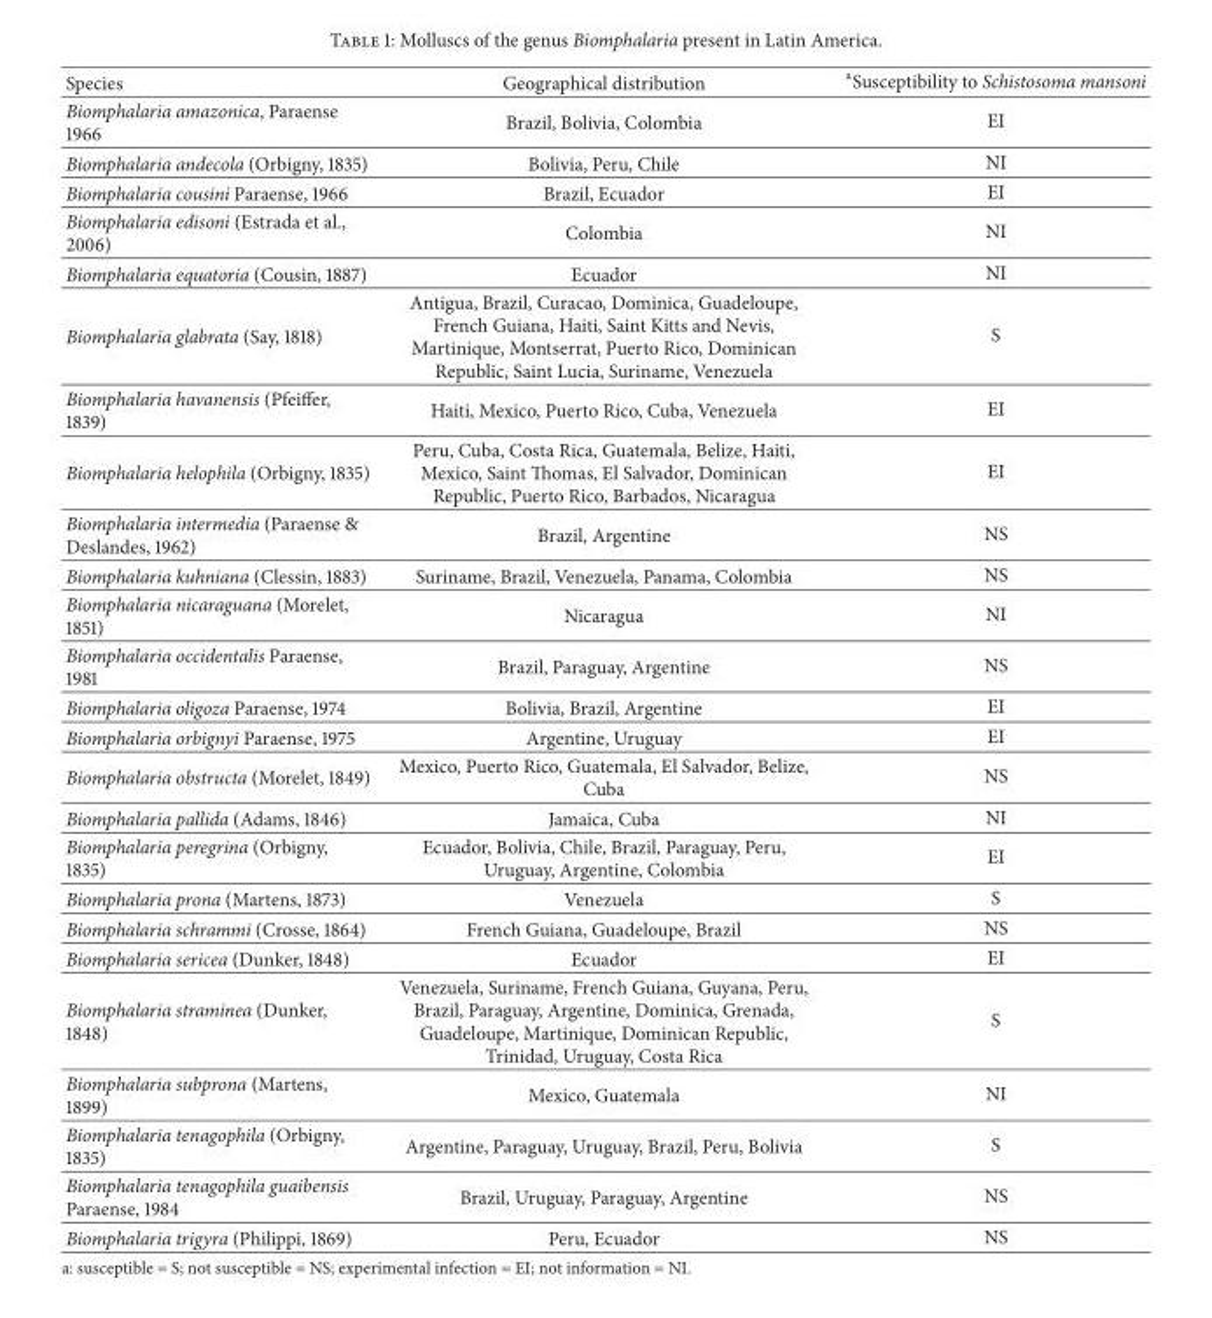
<table><thead><tr><td>Species</td><td>Geographical distribution</td><td><sup>a</sup>Susceptibility to Schistosoma mansoni</td></tr></thead><tbody><tr><td>Biomphalaria amazonica, Paraense 1966</td><td>Brazil, Bolivia, Colombia</td><td>EI</td></tr><tr><td>Biomphalaria andecola (Orbigny, 1835)</td><td>Bolivia, Peru, Chile</td><td>NI</td></tr><tr><td>Biomphalaria cousini Paraense, 1966</td><td>Brazil, Ecuador</td><td>EI</td></tr><tr><td>Biomphalaria edisoni (Estrada et al., 2006)</td><td>Colombia</td><td>NI</td></tr><tr><td>Biomphalaria equatoria (Cousin, 1887)</td><td>Ecuador</td><td>NI</td></tr><tr><td>Biomphalaria glabrata (Say, 1818)</td><td>Antigua, Brazil, Curacao, Dominica, Guadeloupe, French Guiana, Haiti, Saint Kitts and Nevis, Martinique, Montserrat, Puerto Rico, Dominican Republic, Saint Lucia, Suriname, Venezuela</td><td>S</td></tr><tr><td>Biomphalaria havanensis (Pfeiffer, 1839)</td><td>Haiti, Mexico, Puerto Rico, Cuba, Venezuela</td><td>EI</td></tr><tr><td>Biomphalaria helophila (Orbigny, 1835)</td><td>Peru, Cuba, Costa Rica, Guatemala, Belize, Haiti, Mexico, Saint Thomas, El Salvador, Dominican Republic, Puerto Rico, Barbados, Nicaragua</td><td>EI</td></tr><tr><td>Biomphalaria intermedia (Paraense &amp; Deslandes, 1962)</td><td>Brazil, Argentine</td><td>NS</td></tr><tr><td>Biomphalaria kuhniana (Clessin, 1883)</td><td>Suriname, Brazil, Venezuela, Panama, Colombia</td><td>NS</td></tr><tr><td>Biomphalaria nicaraguana (Morelet, 1851)</td><td>Nicaragua</td><td>NI</td></tr><tr><td>Biomphalaria occidentalis Paraense, 1981</td><td>Brazil, Paraguay, Argentine</td><td>NS</td></tr><tr><td>Biomphalaria oligoza Paraense, 1974</td><td>Bolivia, Brazil, Argentine</td><td>EI</td></tr><tr><td>Biomphalaria orbignyi Paraense, 1975</td><td>Argentine, Uruguay</td><td>EI</td></tr><tr><td>Biomphalaria obstructa (Morelet, 1849)</td><td>Mexico, Puerto Rico, Guatemala, El Salvador, Belize, Cuba</td><td>NS</td></tr><tr><td>Biomphalaria pallida (Adams, 1846)</td><td>Jamaica, Cuba</td><td>NI</td></tr><tr><td>Biomphalaria peregrina (Orbigny, 1835)</td><td>Ecuador, Bolivia, Chile, Brazil, Paraguay, Peru, Uruguay, Argentine, Colombia</td><td>EI</td></tr><tr><td>Biomphalaria prona (Martens, 1873)</td><td>Venezuela</td><td>S</td></tr><tr><td>Biomphalaria schrammi (Crosse, 1864)</td><td>French Guiana, Guadeloupe, Brazil</td><td>NS</td></tr><tr><td>Biomphalaria sericea (Dunker, 1848)</td><td>Ecuador</td><td>EI</td></tr><tr><td>Biomphalaria straminea (Dunker, 1848)</td><td>Venezuela, Suriname, French Guiana, Guyana, Peru, Brazil, Paraguay, Argentine, Dominica, Grenada, Guadeloupe, Martinique, Dominican Republic, Trinidad, Uruguay, Costa Rica</td><td>S</td></tr><tr><td>Biomphalaria subprona (Martens, 1899)</td><td>Mexico, Guatemala</td><td>NI</td></tr><tr><td>Biomphalaria tenagophila (Orbigny, 1835)</td><td>Argentine, Paraguay, Uruguay, Brazil, Peru, Bolivia</td><td>S</td></tr><tr><td>Biomphalaria tenagophila guaibensis Paraense, 1984</td><td>Brazil, Uruguay, Paraguay, Argentine</td><td>NS</td></tr><tr><td>Biomphalaria trigyra (Philippi, 1869)</td><td>Peru, Ecuador</td><td>NS</td></tr></tbody></table>